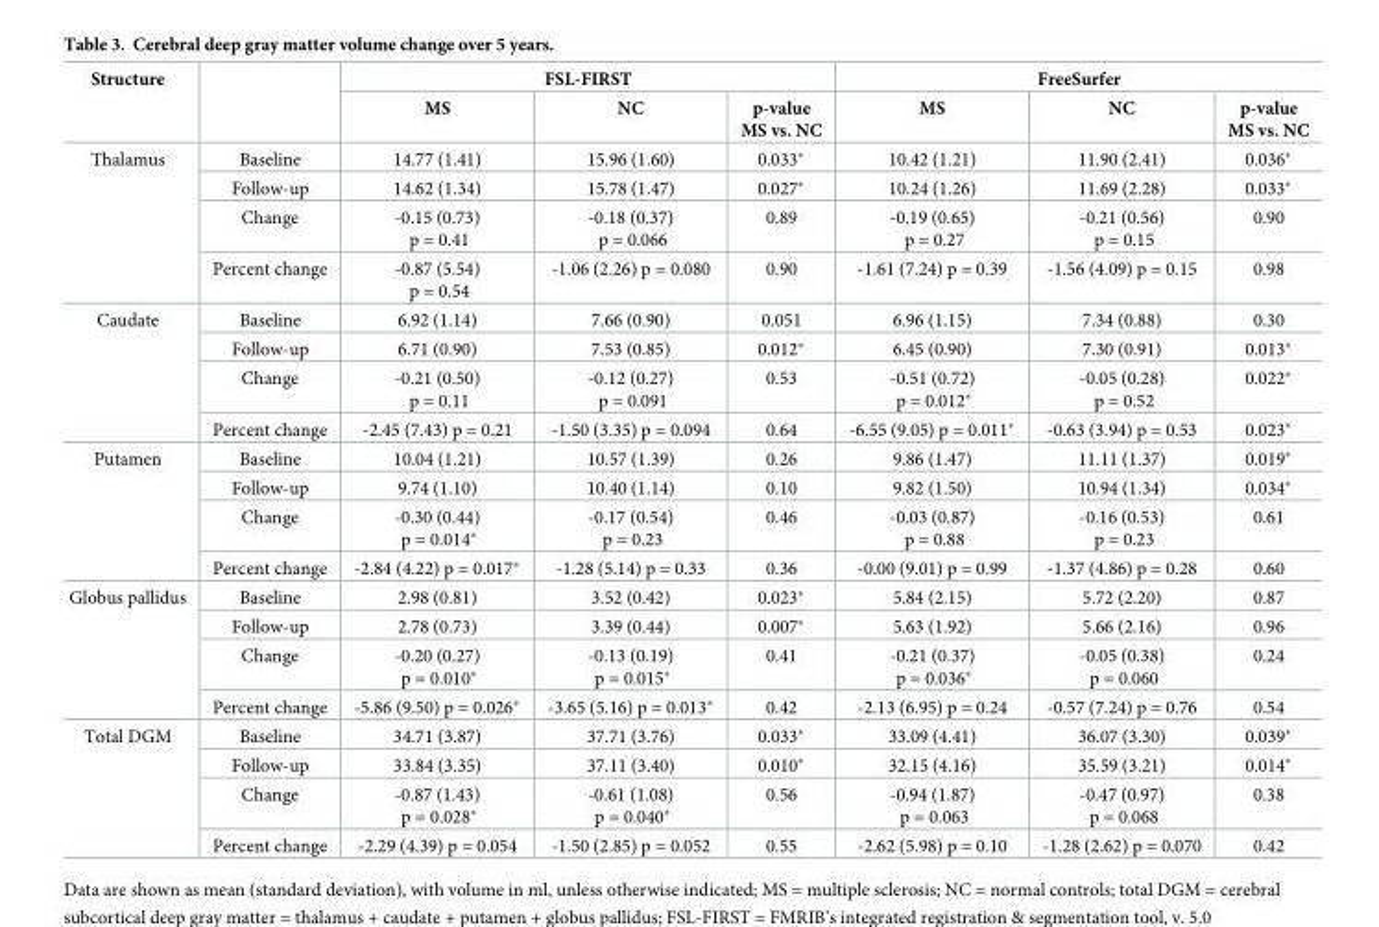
<table><thead><tr><td rowspan="2">Structure</td><td rowspan="2"></td><td colspan="3">FSL-FIRST</td><td colspan="3">FreeSurfer</td></tr><tr><td>MS</td><td>NC</td><td>p-value MS vs. NC</td><td>MS</td><td>NC</td><td>p-value MS vs. NC</td></tr></thead><tbody><tr><td rowspan="4">Thalamus</td><td>Baseline</td><td>14.77 (1.41)</td><td>15.96 (1.60)</td><td>0.033*</td><td>10.42 (1.21)</td><td>11.90 (2.41)</td><td>0.036*</td></tr><tr><td>Follow-up</td><td>14.62 (1.34)</td><td>15.78 (1.47)</td><td>0.027*</td><td>10.24 (1.26)</td><td>11.69 (2.28)</td><td>0.033*</td></tr><tr><td>Change</td><td>-0.15 (0.73) p = 0.41</td><td>-0.18 (0.37) p = 0.066</td><td>0.89</td><td>-0.19 (0.65) p = 0.27</td><td>-0.21 (0.56) p = 0.15</td><td>0.90</td></tr><tr><td>Percent change</td><td>-0.87 (5.54) p = 0.54</td><td>-1.06 (2.26) p = 0.080</td><td>0.90</td><td>-1.61 (7.24) p = 0.39</td><td>-1.56 (4.09) p = 0.15</td><td>0.98</td></tr><tr><td rowspan="4">Caudate</td><td>Baseline</td><td>6.92 (1.14)</td><td>7.66 (0.90)</td><td>0.051</td><td>6.96 (1.15)</td><td>7.34 (0.88)</td><td>0.30</td></tr><tr><td>Follow-up</td><td>6.71 (0.90)</td><td>7.53 (0.85)</td><td>0.012*</td><td>6.45 (0.90)</td><td>7.30 (0.91)</td><td>0.013*</td></tr><tr><td>Change</td><td>-0.21 (0.50) p = 0.11</td><td>-0.12 (0.27) p = 0.091</td><td>0.53</td><td>-0.51 (0.72) p = 0.012*</td><td>-0.05 (0.28) p = 0.52</td><td>0.022*</td></tr><tr><td>Percent change</td><td>-2.45 (7.43) p = 0.21</td><td>-1.50 (3.35) p = 0.094</td><td>0.64</td><td>-6.55 (9.05) p = 0.011*</td><td>-0.63 (3.94) p = 0.53</td><td>0.023*</td></tr><tr><td rowspan="4">Putamen</td><td>Baseline</td><td>10.04 (1.21)</td><td>10.57 (1.39)</td><td>0.26</td><td>9.86 (1.47)</td><td>11.11 (1.37)</td><td>0.019*</td></tr><tr><td>Follow-up</td><td>9.74 (1.10)</td><td>10.40 (1.14)</td><td>0.10</td><td>9.82 (1.50)</td><td>10.94 (1.34)</td><td>0.034*</td></tr><tr><td>Change</td><td>-0.30 (0.44) p = 0.014*</td><td>-0.17 (0.54) p = 0.23</td><td>0.46</td><td>-0.03 (0.87) p = 0.88</td><td>-0.16 (0.53) p = 0.23</td><td>0.61</td></tr><tr><td>Percent change</td><td>-2.84 (4.22) p = 0.017*</td><td>-1.28 (5.14) p = 0.33</td><td>0.36</td><td>-0.00 (9.01) p = 0.99</td><td>-1.37 (4.86) p = 0.28</td><td>0.60</td></tr><tr><td rowspan="4">Globus pallidus</td><td>Baseline</td><td>2.98 (0.81)</td><td>3.52 (0.42)</td><td>0.023*</td><td>5.84 (2.15)</td><td>5.72 (2.20)</td><td>0.87</td></tr><tr><td>Follow-up</td><td>2.78 (0.73)</td><td>3.39 (0.44)</td><td>0.007*</td><td>5.63 (1.92)</td><td>5.66 (2.16)</td><td>0.96</td></tr><tr><td>Change</td><td>-0.20 (0.27) p = 0.010*</td><td>-0.13 (0.19) p = 0.015*</td><td>0.41</td><td>-0.21 (0.37) p = 0.036*</td><td>-0.05 (0.38) p = 0.060</td><td>0.24</td></tr><tr><td>Percent change</td><td>-5.86 (9.50) p = 0.026*</td><td>-3.65 (5.16) p = 0.013*</td><td>0.42</td><td>-2.13 (6.95) p = 0.24</td><td>-0.57 (7.24) p = 0.76</td><td>0.54</td></tr><tr><td rowspan="4">Total DGM</td><td>Baseline</td><td>34.71 (3.87)</td><td>37.71 (3.76)</td><td>0.033*</td><td>33.09 (4.41)</td><td>36.07 (3.30)</td><td>0.039*</td></tr><tr><td>Follow-up</td><td>33.84 (3.35)</td><td>37.11 (3.40)</td><td>0.010*</td><td>32.15 (4.16)</td><td>35.59 (3.21)</td><td>0.014*</td></tr><tr><td>Change</td><td>-0.87 (1.43) p = 0.028*</td><td>-0.61 (1.08) p = 0.040*</td><td>0.56</td><td>-0.94 (1.87) p = 0.063</td><td>-0.47 (0.97) p = 0.068</td><td>0.38</td></tr><tr><td>Percent change</td><td>-2.29 (4.39) p = 0.054</td><td>-1.50 (2.85) p = 0.052</td><td>0.55</td><td>-2.62 (5.98) p = 0.10</td><td>-1.28 (2.62) p = 0.070</td><td>0.42</td></tr></tbody></table>